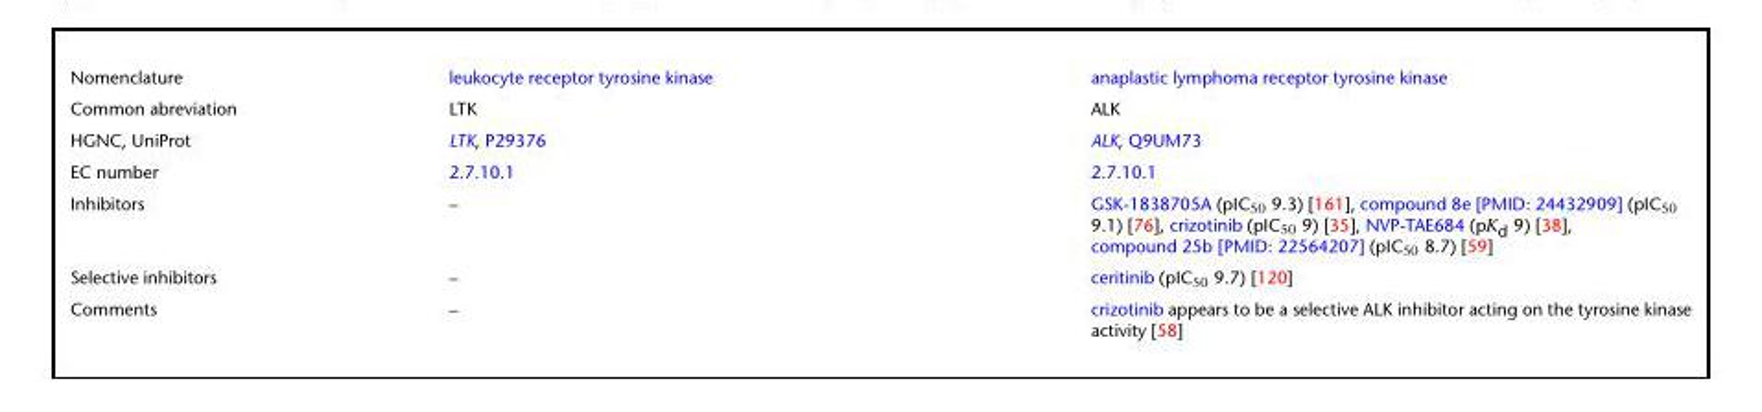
<table><tbody><tr><td>Nomenclature</td><td>leukocyte receptor tyrosine kinase</td><td>anaplastic lymphoma receptor tyrosine kinase</td></tr><tr><td>Common abreviation</td><td>LTK</td><td>ALK</td></tr><tr><td>HGNC, UniProt</td><td>LTK, P29376</td><td>ALK, Q9UM73</td></tr><tr><td>EC number</td><td>2.7.10.1</td><td>2.7.10.1</td></tr><tr><td>Inhibitors</td><td>–</td><td>GSK-1838705A (pIC<sub>50</sub> 9.3) [161], compound 8e [PMID: 24432909] (pIC<sub>50</sub> 9.1) [76], crizotinib (pIC<sub>50</sub> 9) [35], NVP-TAE684 (pK<sub>d</sub> 9) [38], compound 25b [PMID: 22564207] (pIC<sub>50</sub> 8.7) [59]</td></tr><tr><td>Selective inhibitors</td><td>–</td><td>ceritinib (pIC<sub>50</sub> 9.7) [120]</td></tr><tr><td>Comments</td><td>–</td><td>crizotinib appears to be a selective ALK inhibitor acting on the tyrosine kinase activity [58]</td></tr></tbody></table>